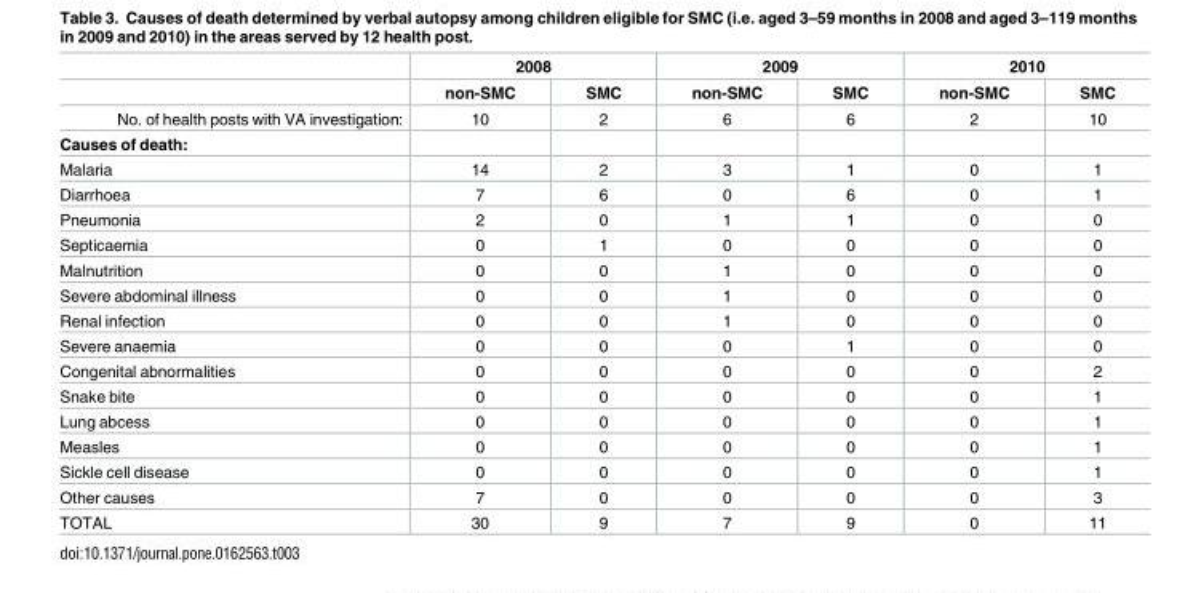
<table><thead><tr><td rowspan="2"></td><td colspan="2">2008</td><td colspan="2">2009</td><td colspan="2">2010</td></tr><tr><td>non-SMC</td><td>SMC</td><td>non-SMC</td><td>SMC</td><td>non-SMC</td><td>SMC</td></tr></thead><tbody><tr><td>No. of health posts with VA investigation:</td><td>10</td><td>2</td><td>6</td><td>6</td><td>2</td><td>10</td></tr><tr><td colspan="7">Causes of death:</td></tr><tr><td>Malaria</td><td>14</td><td>2</td><td>3</td><td>1</td><td>0</td><td>1</td></tr><tr><td>Diarrhoea</td><td>7</td><td>6</td><td>0</td><td>6</td><td>0</td><td>1</td></tr><tr><td>Pneumonia</td><td>2</td><td>0</td><td>1</td><td>1</td><td>0</td><td>0</td></tr><tr><td>Septicaemia</td><td>0</td><td>1</td><td>0</td><td>0</td><td>0</td><td>0</td></tr><tr><td>Malnutrition</td><td>0</td><td>0</td><td>1</td><td>0</td><td>0</td><td>0</td></tr><tr><td>Severe abdominal illness</td><td>0</td><td>0</td><td>1</td><td>0</td><td>0</td><td>0</td></tr><tr><td>Renal infection</td><td>0</td><td>0</td><td>1</td><td>0</td><td>0</td><td>0</td></tr><tr><td>Severe anaemia</td><td>0</td><td>0</td><td>0</td><td>1</td><td>0</td><td>0</td></tr><tr><td>Congenital abnormalities</td><td>0</td><td>0</td><td>0</td><td>0</td><td>0</td><td>2</td></tr><tr><td>Snake bite</td><td>0</td><td>0</td><td>0</td><td>0</td><td>0</td><td>1</td></tr><tr><td>Lung abcess</td><td>0</td><td>0</td><td>0</td><td>0</td><td>0</td><td>1</td></tr><tr><td>Measles</td><td>0</td><td>0</td><td>0</td><td>0</td><td>0</td><td>1</td></tr><tr><td>Sickle cell disease</td><td>0</td><td>0</td><td>0</td><td>0</td><td>0</td><td>1</td></tr><tr><td>Other causes</td><td>7</td><td>0</td><td>0</td><td>0</td><td>0</td><td>3</td></tr><tr><td>TOTAL</td><td>30</td><td>9</td><td>7</td><td>9</td><td>0</td><td>11</td></tr></tbody></table>